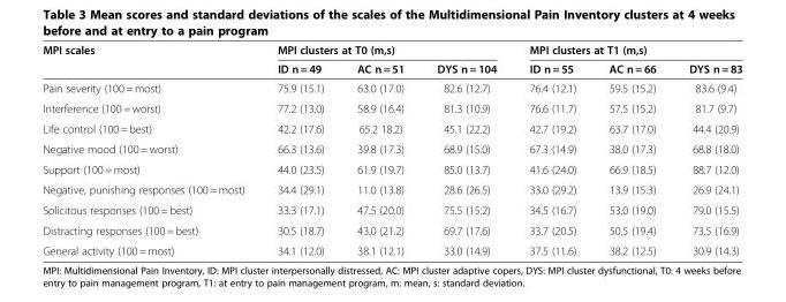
<table><thead><tr><td rowspan="2">MPI scales</td><td colspan="3">MPI clusters at T0 (m,s)</td><td colspan="3">MPI clusters at T1 (m,s)</td></tr><tr><td>ID n = 49</td><td>AC n = 51</td><td>DYS n = 104</td><td>ID n = 55</td><td>AC n = 66</td><td>DYS n = 83</td></tr></thead><tbody><tr><td>Pain severity (100 = most)</td><td>75.9 (15.1)</td><td>63.0 (17.0)</td><td>82.6 (12.7)</td><td>76.4 (12.1)</td><td>59.5 (15.2)</td><td>83.6 (9.4)</td></tr><tr><td>Interference (100 = worst)</td><td>77.2 (13.0)</td><td>58.9 (16.4)</td><td>81.3 (10.9)</td><td>76.6 (11.7)</td><td>57.5 (15.2)</td><td>81.7 (9.7)</td></tr><tr><td>Life control (100 = best)</td><td>42.2 (17.6)</td><td>65.2 18.2)</td><td>45.1 (22.2)</td><td>42.7 (19.2)</td><td>63.7 (17.0)</td><td>44.4 (20.9)</td></tr><tr><td>Negative mood (100 = worst)</td><td>66.3 (13.6)</td><td>39.8 (17.3)</td><td>68.9 (15.0)</td><td>67.3 (14.9)</td><td>38.0 (17.3)</td><td>68.8 (18.0)</td></tr><tr><td>Support (100 = most)</td><td>44.0 (23.5)</td><td>61.9 (19.7)</td><td>85.0 (13.7)</td><td>41.6 (24.0)</td><td>66.9 (18.5)</td><td>88.7 (12.0)</td></tr><tr><td>Negative, punishing responses (100 = most)</td><td>34.4 (29.1)</td><td>11.0 (13.8)</td><td>28.6 (26.5)</td><td>33.0 (29.2)</td><td>13.9 (15.3)</td><td>26.9 (24.1)</td></tr><tr><td>Solicitous responses (100 = best)</td><td>33.3 (17.1)</td><td>47.5 (20.0)</td><td>75.5 (15.2)</td><td>34.5 (16.7)</td><td>53.0 (19.0)</td><td>79.0 (15.5)</td></tr><tr><td>Distracting responses (100 = best)</td><td>30.5 (18.7)</td><td>43.0 (21.2)</td><td>69.7 (17.6)</td><td>33.7 (20.5)</td><td>50.5 (19.4)</td><td>73.5 (16.9)</td></tr><tr><td>General activity (100 = most)</td><td>34.1 (12.0)</td><td>38.1 (12.1)</td><td>33.0 (14.9)</td><td>37.5 (11.6)</td><td>38.2 (12.5)</td><td>30.9 (14.3)</td></tr></tbody></table>